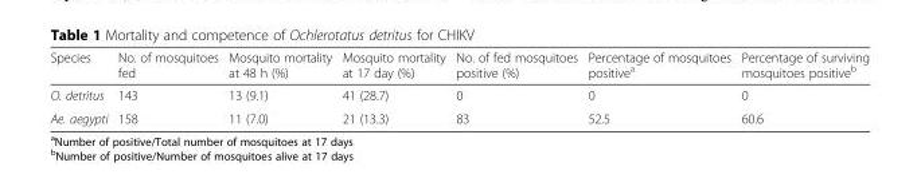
<table><thead><tr><td>Species</td><td>No. of mosquitoes fed</td><td>Mosquito mortality at 48 h (%)</td><td>Mosquito mortality at 17 day (%)</td><td>No. of fed mosquitoes positive (%)</td><td>Percentage of mosquitoes positive<sup>a</sup></td><td>Percentage of surviving mosquitoes positive<sup>b</sup></td></tr></thead><tbody><tr><td>O. detritus</td><td>143</td><td>13 (9.1)</td><td>41 (28.7)</td><td>0</td><td>0</td><td>0</td></tr><tr><td>Ae. aegypti</td><td>158</td><td>11 (7.0)</td><td>21 (13.3)</td><td>83</td><td>52.5</td><td>60.6</td></tr></tbody></table>